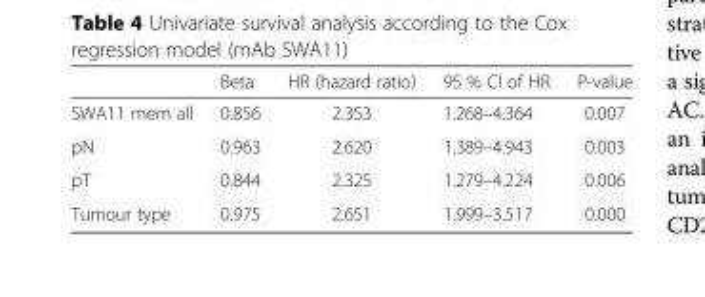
<table><thead><tr><td></td><td>Beta</td><td>HR (hazard ratio)</td><td>95 % CI of HR</td><td>P-value</td></tr></thead><tbody><tr><td>SWA11 mem all</td><td>0.856</td><td>2.353</td><td>1.268–4.364</td><td>0.007</td></tr><tr><td>pN</td><td>0.963</td><td>2.620</td><td>1.389–4.943</td><td>0.003</td></tr><tr><td>pT</td><td>0.844</td><td>2.325</td><td>1.279–4.224</td><td>0.006</td></tr><tr><td>Tumour type</td><td>0.975</td><td>2.651</td><td>1.999–3.517</td><td>0.000</td></tr></tbody></table>